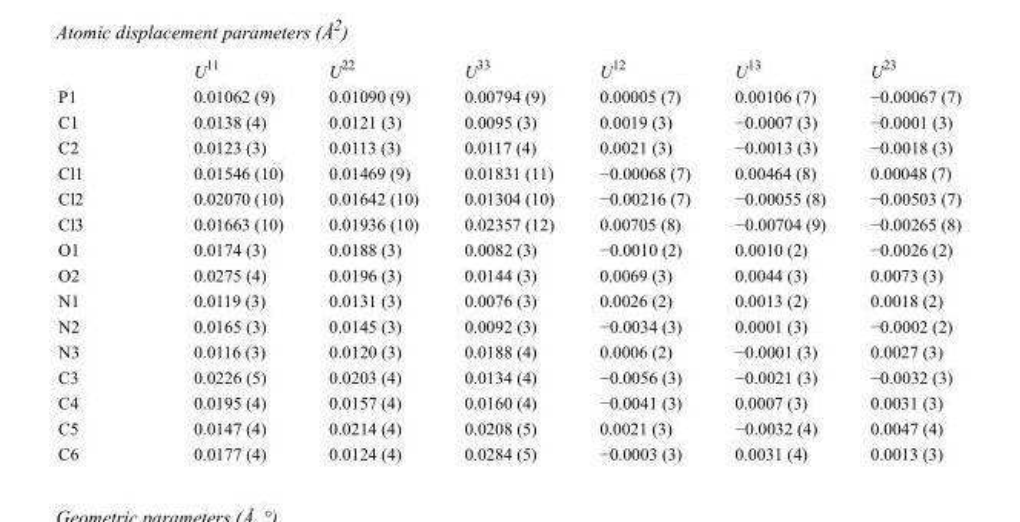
<table><thead><tr><td></td><td>U<sup>11</sup></td><td>U<sup>22</sup></td><td>U<sup>33</sup></td><td>U<sup>12</sup></td><td>U<sup>13</sup></td><td>U<sup>23</sup></td></tr></thead><tbody><tr><td>P1</td><td>0.01062 (9)</td><td>0.01090 (9)</td><td>0.00794 (9)</td><td>0.00005 (7)</td><td>0.00106 (7)</td><td>−0.00067 (7)</td></tr><tr><td>C1</td><td>0.0138 (4)</td><td>0.0121 (3)</td><td>0.0095 (3)</td><td>0.0019 (3)</td><td>−0.0007 (3)</td><td>−0.0001 (3)</td></tr><tr><td>C2</td><td>0.0123 (3)</td><td>0.0113 (3)</td><td>0.0117 (4)</td><td>0.0021 (3)</td><td>−0.0013 (3)</td><td>−0.0018 (3)</td></tr><tr><td>Cl1</td><td>0.01546 (10)</td><td>0.01469 (9)</td><td>0.01831 (11)</td><td>−0.00068 (7)</td><td>0.00464 (8)</td><td>0.00048 (7)</td></tr><tr><td>Cl2</td><td>0.02070 (10)</td><td>0.01642 (10)</td><td>0.01304 (10)</td><td>−0.00216 (7)</td><td>−0.00055 (8)</td><td>−0.00503 (7)</td></tr><tr><td>Cl3</td><td>0.01663 (10)</td><td>0.01936 (10)</td><td>0.02357 (12)</td><td>0.00705 (8)</td><td>−0.00704 (9)</td><td>−0.00265 (8)</td></tr><tr><td>O1</td><td>0.0174 (3)</td><td>0.0188 (3)</td><td>0.0082 (3)</td><td>−0.0010 (2)</td><td>0.0010 (2)</td><td>−0.0026 (2)</td></tr><tr><td>O2</td><td>0.0275 (4)</td><td>0.0196 (3)</td><td>0.0144 (3)</td><td>0.0069 (3)</td><td>0.0044 (3)</td><td>0.0073 (3)</td></tr><tr><td>N1</td><td>0.0119 (3)</td><td>0.0131 (3)</td><td>0.0076 (3)</td><td>0.0026 (2)</td><td>0.0013 (2)</td><td>0.0018 (2)</td></tr><tr><td>N2</td><td>0.0165 (3)</td><td>0.0145 (3)</td><td>0.0092 (3)</td><td>−0.0034 (3)</td><td>0.0001 (3)</td><td>−0.0002 (2)</td></tr><tr><td>N3</td><td>0.0116 (3)</td><td>0.0120 (3)</td><td>0.0188 (4)</td><td>0.0006 (2)</td><td>−0.0001 (3)</td><td>0.0027 (3)</td></tr><tr><td>C3</td><td>0.0226 (5)</td><td>0.0203 (4)</td><td>0.0134 (4)</td><td>−0.0056 (3)</td><td>−0.0021 (3)</td><td>−0.0032 (3)</td></tr><tr><td>C4</td><td>0.0195 (4)</td><td>0.0157 (4)</td><td>0.0160 (4)</td><td>−0.0041 (3)</td><td>0.0007 (3)</td><td>0.0031 (3)</td></tr><tr><td>C5</td><td>0.0147 (4)</td><td>0.0214 (4)</td><td>0.0208 (5)</td><td>0.0021 (3)</td><td>−0.0032 (4)</td><td>0.0047 (4)</td></tr><tr><td>C6</td><td>0.0177 (4)</td><td>0.0124 (4)</td><td>0.0284 (5)</td><td>−0.0003 (3)</td><td>0.0031 (4)</td><td>0.0013 (3)</td></tr></tbody></table>